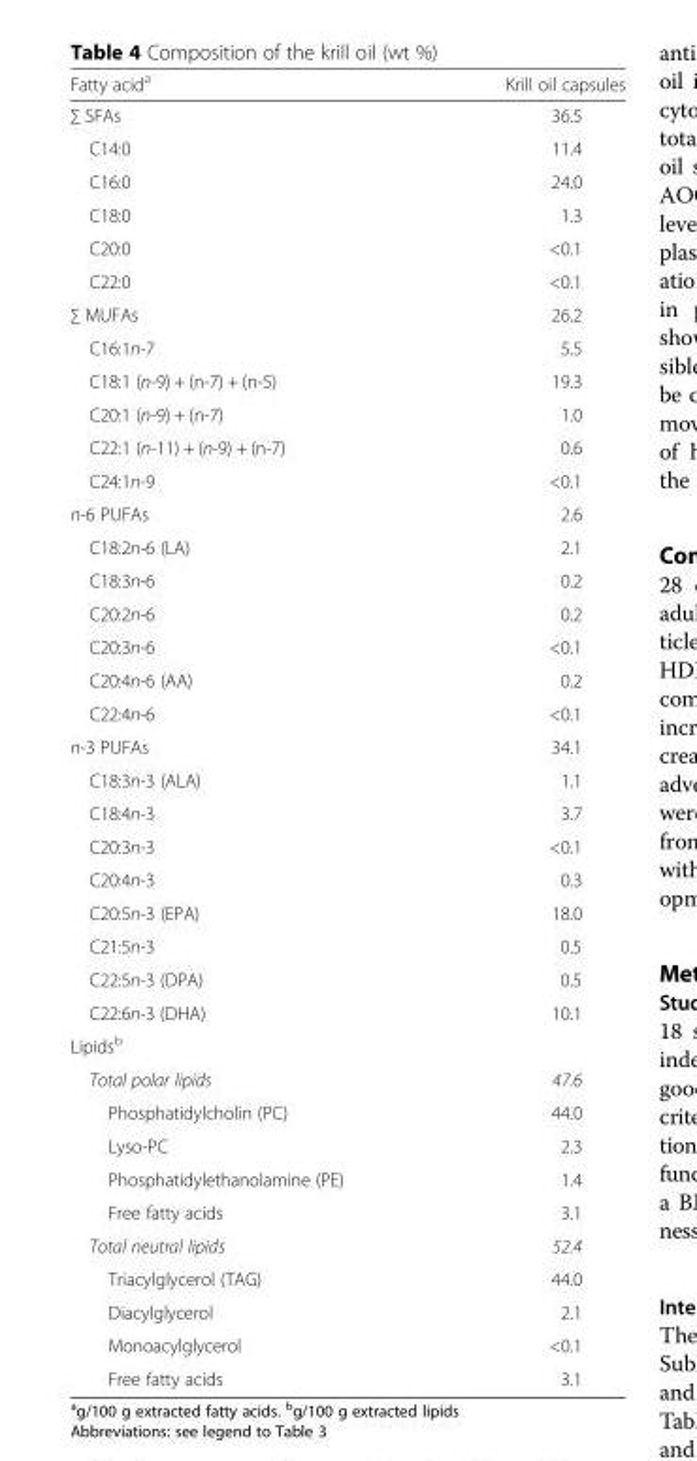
<table><thead><tr><td>Fatty acid<sup>a</sup></td><td>Krill oil capsules</td></tr></thead><tbody><tr><td>∑ SFAs</td><td>36.5</td></tr><tr><td>C14:0</td><td>11.4</td></tr><tr><td>C16:0</td><td>24.0</td></tr><tr><td>C18:0</td><td>1.3</td></tr><tr><td>C20:0</td><td>&lt;0.1</td></tr><tr><td>C22:0</td><td>&lt;0.1</td></tr><tr><td>∑ MUFAs</td><td>26.2</td></tr><tr><td>C16:1n-7</td><td>5.5</td></tr><tr><td>C18:1 (n-9) + (n-7) + (n-5)</td><td>19.3</td></tr><tr><td>C20:1 (n-9) + (n-7)</td><td>1.0</td></tr><tr><td>C22:1 (n-11) + (n-9) + (n-7)</td><td>0.6</td></tr><tr><td>C24:1n-9</td><td>&lt;0.1</td></tr><tr><td>n-6 PUFAs</td><td>2.6</td></tr><tr><td>C18:2n-6 (LA)</td><td>2.1</td></tr><tr><td>C18:3n-6</td><td>0.2</td></tr><tr><td>C20:2n-6</td><td>0.2</td></tr><tr><td>C20:3n-6</td><td>&lt;0.1</td></tr><tr><td>C20:4n-6 (AA)</td><td>0.2</td></tr><tr><td>C22:4n-6</td><td>&lt;0.1</td></tr><tr><td>n-3 PUFAs</td><td>34.1</td></tr><tr><td>C18:3n-3 (ALA)</td><td>1.1</td></tr><tr><td>C18:4n-3</td><td>3.7</td></tr><tr><td>C20:3n-3</td><td>&lt;0.1</td></tr><tr><td>C20:4n-3</td><td>0.3</td></tr><tr><td>C20:5n-3 (EPA)</td><td>18.0</td></tr><tr><td>C21:5n-3</td><td>0.5</td></tr><tr><td>C22:5n-3 (DPA)</td><td>0.5</td></tr><tr><td>C22:6n-3 (DHA)</td><td>10.1</td></tr><tr><td colspan="2">Lipids<sup>b</sup></td></tr><tr><td>Total polar lipids</td><td>47.6</td></tr><tr><td>Phosphatidylcholin (PC)</td><td>44.0</td></tr><tr><td>Lyso-PC</td><td>2.3</td></tr><tr><td>Phosphatidylethanolamine (PE)</td><td>1.4</td></tr><tr><td>Free fatty acids</td><td>3.1</td></tr><tr><td>Total neutral lipids</td><td>52.4</td></tr><tr><td>Triacylglycerol (TAG)</td><td>44.0</td></tr><tr><td>Diacylglycerol</td><td>2.1</td></tr><tr><td>Monoacylglycerol</td><td>&lt;0.1</td></tr><tr><td>Free fatty acids</td><td>3.1</td></tr></tbody></table>